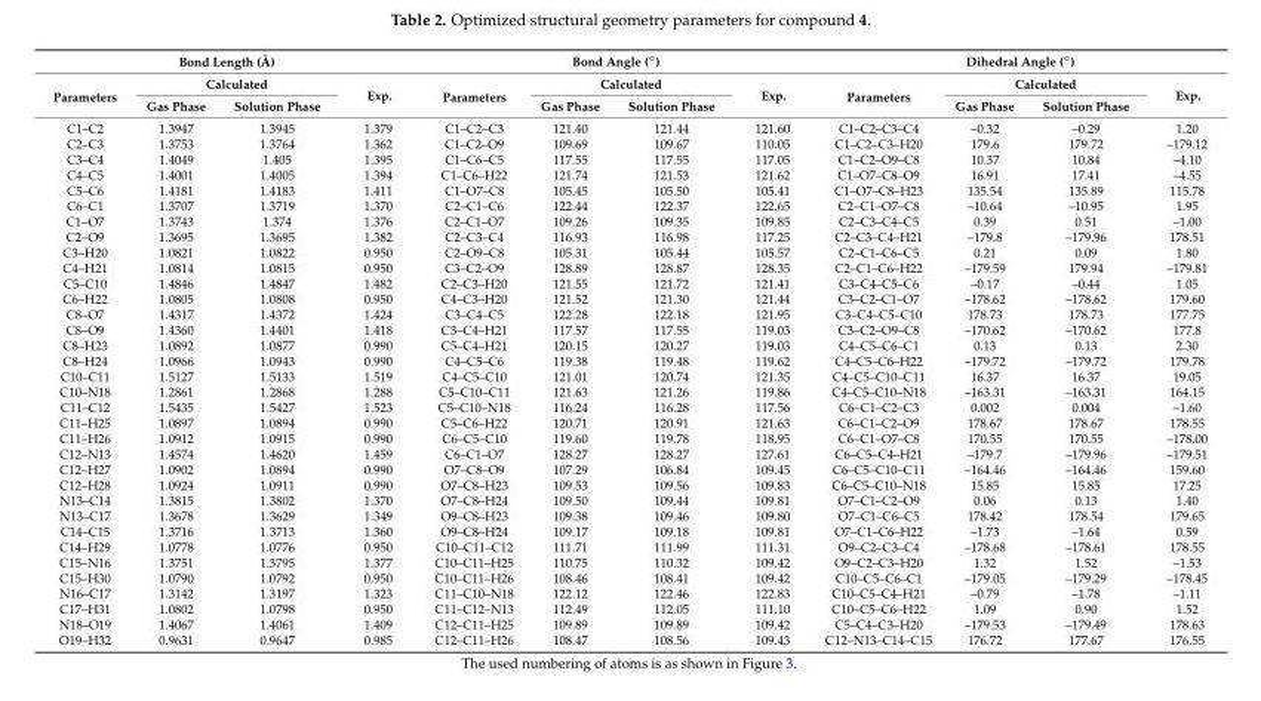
<table><thead><tr><td colspan="4">Bond Length (Å)</td><td colspan="4">Bond Angle (◦)</td><td colspan="4">Dihedral Angle (◦)</td></tr><tr><td rowspan="2">Parameters</td><td colspan="2">Calculated</td><td rowspan="2">Exp.</td><td rowspan="2">Parameters</td><td colspan="2">Calculated</td><td rowspan="2">Exp.</td><td rowspan="2">Parameters</td><td colspan="2">Calculated</td><td rowspan="2">Exp.</td></tr><tr><td>Gas Phase</td><td>Solution Phase</td><td>Gas Phase</td><td>Solution Phase</td><td>Gas Phase</td><td>Solution Phase</td></tr></thead><tbody><tr><td>C1–C2</td><td>1.3947</td><td>1.3945</td><td>1.379</td><td>C1–C2–C3</td><td>121.40</td><td>121.44</td><td>121.60</td><td>C1–C2–C3–C4</td><td>–0.32</td><td>–0.29</td><td>1.20</td></tr><tr><td>C2–C3</td><td>1.3753</td><td>1.3764</td><td>1.362</td><td>C1–C2–O9</td><td>109.69</td><td>109.67</td><td>110.05</td><td>C1–C2–C3–H20</td><td>179.6</td><td>179.72</td><td>–179.12</td></tr><tr><td>C3–C4</td><td>1.4049</td><td>1.405</td><td>1.395</td><td>C1–C6–C5</td><td>117.55</td><td>117.55</td><td>117.05</td><td>C1–C2–O9–C8</td><td>10.37</td><td>10.84</td><td>–4.10</td></tr><tr><td>C4–C5</td><td>1.4001</td><td>1.4005</td><td>1.394</td><td>C1–C6–H22</td><td>121.74</td><td>121.53</td><td>121.62</td><td>C1–O7–C8–O9</td><td>16.91</td><td>17.41</td><td>–4.55</td></tr><tr><td>C5–C6</td><td>1.4181</td><td>1.4183</td><td>1.411</td><td>C1–O7–C8</td><td>105.45</td><td>105.50</td><td>105.41</td><td>C1–O7–C8–H23</td><td>135.54</td><td>135.89</td><td>115.78</td></tr><tr><td>C6–C1</td><td>1.3707</td><td>1.3719</td><td>1.370</td><td>C2–C1–C6</td><td>122.44</td><td>122.37</td><td>122.65</td><td>C2–C1–O7–C8</td><td>–10.64</td><td>–10.95</td><td>1.95</td></tr><tr><td>C1–O7</td><td>1.3743</td><td>1.374</td><td>1.376</td><td>C2–C1–O7</td><td>109.26</td><td>109.35</td><td>109.85</td><td>C2–C3–C4–C5</td><td>0.39</td><td>0.51</td><td>–1.00</td></tr><tr><td>C2–O9</td><td>1.3695</td><td>1.3695</td><td>1.382</td><td>C2–C3–C4</td><td>116.93</td><td>116.98</td><td>117.25</td><td>C2–C3–C4–H21</td><td>–179.8</td><td>–179.96</td><td>178.51</td></tr><tr><td>C3–H20</td><td>1.0821</td><td>1.0822</td><td>0.950</td><td>C2–O9–C8</td><td>105.31</td><td>105.44</td><td>105.57</td><td>C2–C1–C6–C5</td><td>0.21</td><td>0.09</td><td>1.80</td></tr><tr><td>C4–H21</td><td>1.0814</td><td>1.0815</td><td>0.950</td><td>C3–C2–O9</td><td>128.89</td><td>128.87</td><td>128.35</td><td>C2–C1–C6–H22</td><td>–179.59</td><td>179.94</td><td>–179.81</td></tr><tr><td>C5–C10</td><td>1.4846</td><td>1.4847</td><td>1.482</td><td>C2–C3–H20</td><td>121.55</td><td>121.72</td><td>121.41</td><td>C3–C4–C5–C6</td><td>–0.17</td><td>–0.44</td><td>1.05</td></tr><tr><td>C6–H22</td><td>1.0805</td><td>1.0808</td><td>0.950</td><td>C4–C3–H20</td><td>121.52</td><td>121.30</td><td>121.44</td><td>C3–C2–C1–O7</td><td>–178.62</td><td>–178.62</td><td>179.60</td></tr><tr><td>C8–O7</td><td>1.4317</td><td>1.4372</td><td>1.424</td><td>C3–C4–C5</td><td>122.28</td><td>122.18</td><td>121.95</td><td>C3–C4–C5–C10</td><td>178.73</td><td>178.73</td><td>177.75</td></tr><tr><td>C8–O9</td><td>1.4360</td><td>1.4401</td><td>1.418</td><td>C3–C4–H21</td><td>117.57</td><td>117.55</td><td>119.03</td><td>C3–C2–O9–C8</td><td>–170.62</td><td>–170.62</td><td>177.8</td></tr><tr><td>C8–H23</td><td>1.0892</td><td>1.0877</td><td>0.990</td><td>C5–C4–H21</td><td>120.15</td><td>120.27</td><td>119.03</td><td>C4–C5–C6–C1</td><td>0.13</td><td>0.13</td><td>2.30</td></tr><tr><td>C8–H24</td><td>1.0966</td><td>1.0943</td><td>0.990</td><td>C4–C5–C6</td><td>119.38</td><td>119.48</td><td>119.62</td><td>C4–C5–C6–H22</td><td>–179.72</td><td>–179.72</td><td>179.78</td></tr><tr><td>C10–C11</td><td>1.5127</td><td>1.5133</td><td>1.519</td><td>C4–C5–C10</td><td>121.01</td><td>120.74</td><td>121.35</td><td>C4–C5–C10–C11</td><td>16.37</td><td>16.37</td><td>19.05</td></tr><tr><td>C10–N18</td><td>1.2861</td><td>1.2868</td><td>1.288</td><td>C5–C10–C11</td><td>121.63</td><td>121.26</td><td>119.86</td><td>C4–C5–C10–N18</td><td>–163.31</td><td>–163.31</td><td>164.15</td></tr><tr><td>C11–C12</td><td>1.5435</td><td>1.5427</td><td>1.523</td><td>C5–C10–N18</td><td>116.24</td><td>116.28</td><td>117.56</td><td>C6–C1–C2–C3</td><td>0.002</td><td>0.004</td><td>–1.60</td></tr><tr><td>C11–H25</td><td>1.0897</td><td>1.0894</td><td>0.990</td><td>C5–C6–H22</td><td>120.71</td><td>120.91</td><td>121.63</td><td>C6–C1–C2–O9</td><td>178.67</td><td>178.67</td><td>178.55</td></tr><tr><td>C11–H26</td><td>1.0912</td><td>1.0915</td><td>0.990</td><td>C6–C5–C10</td><td>119.60</td><td>119.78</td><td>118.95</td><td>C6–C1–O7–C8</td><td>170.55</td><td>170.55</td><td>–178.00</td></tr><tr><td>C12–N13</td><td>1.4574</td><td>1.4620</td><td>1.459</td><td>C6–C1–O7</td><td>128.27</td><td>128.27</td><td>127.61</td><td>C6–C5–C4–H21</td><td>–179.7</td><td>–179.96</td><td>–179.51</td></tr><tr><td>C12–H27</td><td>1.0902</td><td>1.0894</td><td>0.990</td><td>O7–C8–O9</td><td>107.29</td><td>106.84</td><td>109.45</td><td>C6–C5–C10–C11</td><td>–164.46</td><td>–164.46</td><td>159.60</td></tr><tr><td>C12–H28</td><td>1.0924</td><td>1.0911</td><td>0.990</td><td>O7–C8–H23</td><td>109.53</td><td>109.56</td><td>109.83</td><td>C6–C5–C10–N18</td><td>15.85</td><td>15.85</td><td>17.25</td></tr><tr><td>N13–C14</td><td>1.3815</td><td>1.3802</td><td>1.370</td><td>O7–C8–H24</td><td>109.50</td><td>109.44</td><td>109.81</td><td>O7–C1–C2–O9</td><td>0.06</td><td>0.13</td><td>1.40</td></tr><tr><td>N13–C17</td><td>1.3678</td><td>1.3629</td><td>1.349</td><td>O9–C8–H23</td><td>109.38</td><td>109.46</td><td>109.80</td><td>O7–C1–C6–C5</td><td>178.42</td><td>178.54</td><td>179.65</td></tr><tr><td>C14–C15</td><td>1.3716</td><td>1.3713</td><td>1.360</td><td>O9–C8–H24</td><td>109.17</td><td>109.18</td><td>109.81</td><td>O7–C1–C6–H22</td><td>–1.73</td><td>–1.64</td><td>0.59</td></tr><tr><td>C14–H29</td><td>1.0778</td><td>1.0776</td><td>0.950</td><td>C10–C11–C12</td><td>111.71</td><td>111.99</td><td>111.31</td><td>O9–C2–C3–C4</td><td>–178.68</td><td>–178.61</td><td>178.55</td></tr><tr><td>C15–N16</td><td>1.3751</td><td>1.3795</td><td>1.377</td><td>C10–C11–H25</td><td>110.75</td><td>110.32</td><td>109.42</td><td>O9–C2–C3–H20</td><td>1.32</td><td>1.52</td><td>–1.53</td></tr><tr><td>C15–H30</td><td>1.0790</td><td>1.0792</td><td>0.950</td><td>C10–C11–H26</td><td>108.46</td><td>108.41</td><td>109.42</td><td>C10–C5–C6–C1</td><td>–179.05</td><td>–179.29</td><td>–178.45</td></tr><tr><td>N16–C17</td><td>1.3142</td><td>1.3197</td><td>1.323</td><td>C11–C10–N18</td><td>122.12</td><td>122.46</td><td>122.83</td><td>C10–C5–C4–H21</td><td>–0.79</td><td>–1.78</td><td>–1.11</td></tr><tr><td>C17–H31</td><td>1.0802</td><td>1.0798</td><td>0.950</td><td>C11–C12–N13</td><td>112.49</td><td>112.05</td><td>111.10</td><td>C10–C5–C6–H22</td><td>1.09</td><td>0.90</td><td>1.52</td></tr><tr><td>N18–O19</td><td>1.4067</td><td>1.4061</td><td>1.409</td><td>C12–C11–H25</td><td>109.89</td><td>109.89</td><td>109.42</td><td>C5–C4–C3–H20</td><td>–179.53</td><td>–179.49</td><td>178.63</td></tr><tr><td>O19–H32</td><td>0.9631</td><td>0.9647</td><td>0.985</td><td>C12–C11–H26</td><td>108.47</td><td>108.56</td><td>109.43</td><td>C12–N13–C14–C15</td><td>176.72</td><td>177.67</td><td>176.55</td></tr></tbody></table>